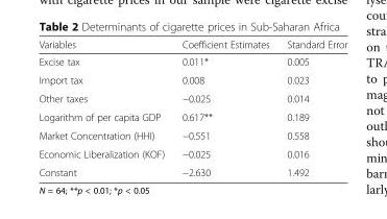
<table><thead><tr><td>Variables</td><td>Coefficient Estimates</td><td>Standard Error</td></tr></thead><tbody><tr><td>Excise tax</td><td>0.011*</td><td>0.005</td></tr><tr><td>Import tax</td><td>0.008</td><td>0.023</td></tr><tr><td>Other taxes</td><td>−0.025</td><td>0.014</td></tr><tr><td>Logarithm of per capita GDP</td><td>0.617**</td><td>0.189</td></tr><tr><td>Market Concentration (HHI)</td><td>−0.551</td><td>0.558</td></tr><tr><td>Economic Liberalization (KOF)</td><td>−0.025</td><td>0.016</td></tr><tr><td>Constant</td><td>−2.630</td><td>1.492</td></tr></tbody></table>